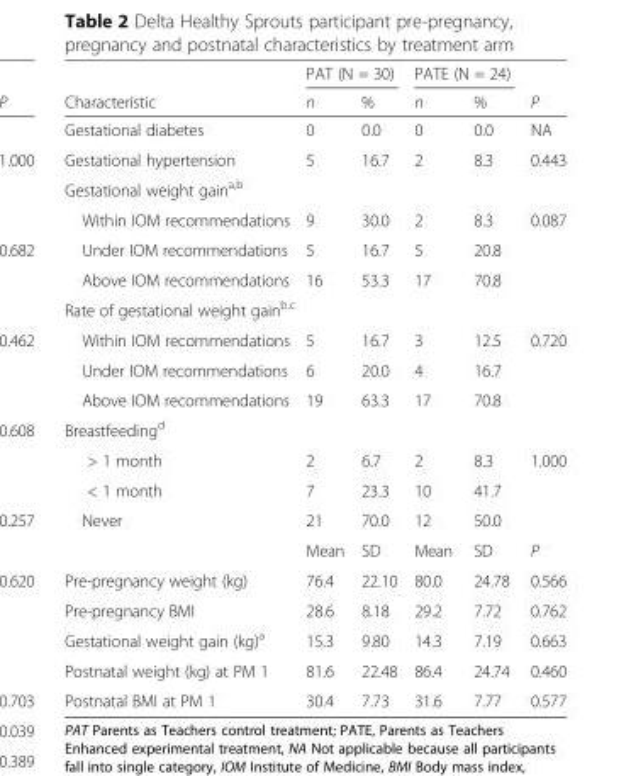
<table><thead><tr><td rowspan="2">Characteristic</td><td colspan="2">PAT (N = 30)</td><td colspan="2">PATE (N = 24)</td><td rowspan="2">P</td></tr><tr><td>n</td><td>%</td><td>n</td><td>%</td></tr></thead><tbody><tr><td>Gestational diabetes</td><td>0</td><td>0.0</td><td>0</td><td>0.0</td><td>NA</td></tr><tr><td>Gestational hypertension</td><td>5</td><td>16.7</td><td>2</td><td>8.3</td><td>0.443</td></tr><tr><td colspan="6">Gestational weight gain<sup>a,b</sup></td></tr><tr><td>Within IOM recommendations</td><td>9</td><td>30.0</td><td>2</td><td>8.3</td><td rowspan="3">0.087</td></tr><tr><td>Under IOM recommendations</td><td>5</td><td>16.7</td><td>5</td><td>20.8</td></tr><tr><td>Above IOM recommendations</td><td>16</td><td>53.3</td><td>17</td><td>70.8</td></tr><tr><td colspan="6">Rate of gestational weight gain<sup>b,c</sup></td></tr><tr><td>Within IOM recommendations</td><td>5</td><td>16.7</td><td>3</td><td>12.5</td><td rowspan="3">0.720</td></tr><tr><td>Under IOM recommendations</td><td>6</td><td>20.0</td><td>4</td><td>16.7</td></tr><tr><td>Above IOM recommendations</td><td>19</td><td>63.3</td><td>17</td><td>70.8</td></tr><tr><td colspan="6">Breastfeeding<sup>d</sup></td></tr><tr><td>&gt; 1 month</td><td>2</td><td>6.7</td><td>2</td><td>8.3</td><td rowspan="3">1.000</td></tr><tr><td>&lt; 1 month</td><td>7</td><td>23.3</td><td>10</td><td>41.7</td></tr><tr><td rowspan="2">Never</td><td>21</td><td>70.0</td><td>12</td><td>50.0</td></tr><tr><td>Mean</td><td>SD</td><td>Mean</td><td>SD</td><td>P</td></tr><tr><td>Pre-pregnancy weight (kg)</td><td>76.4</td><td>22.10</td><td>80.0</td><td>24.78</td><td>0.566</td></tr><tr><td>Pre-pregnancy BMI</td><td>28.6</td><td>8.18</td><td>29.2</td><td>7.72</td><td>0.762</td></tr><tr><td>Gestational weight gain (kg)<sup>a</sup></td><td>15.3</td><td>9.80</td><td>14.3</td><td>7.19</td><td>0.663</td></tr><tr><td>Postnatal weight (kg) at PM 1</td><td>81.6</td><td>22.48</td><td>86.4</td><td>24.74</td><td>0.460</td></tr><tr><td>Postnatal BMI at PM 1</td><td>30.4</td><td>7.73</td><td>31.6</td><td>7.77</td><td>0.577</td></tr></tbody></table>